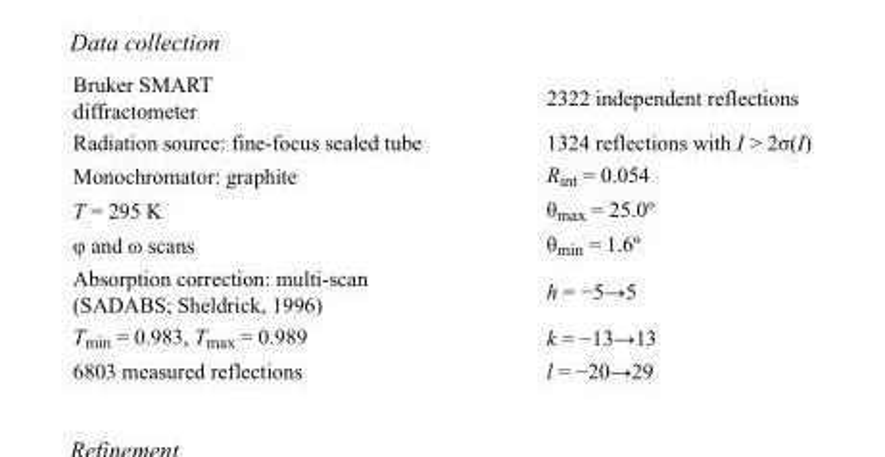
<table><tbody><tr><td>Bruker SMART diffractometer</td><td>2322 independent reflections</td></tr><tr><td>Radiation source: fine-focus sealed tube</td><td>1324 reflections with I &gt; 2σ(I)</td></tr><tr><td>Monochromator: graphite</td><td>R<sub>int</sub> = 0.054</td></tr><tr><td>T = 295 K</td><td>θ<sub>max</sub> = 25.0º</td></tr><tr><td>φ and ω scans</td><td>θ<sub>min</sub> = 1.6º</td></tr><tr><td>Absorption correction: multi-scan (SADABS; Sheldrick, 1996)</td><td>h = −5→5</td></tr><tr><td>T<sub>min</sub> = 0.983, T<sub>max</sub> = 0.989</td><td>k = −13→13</td></tr><tr><td>6803 measured reflections</td><td>l = −20→29</td></tr></tbody></table>